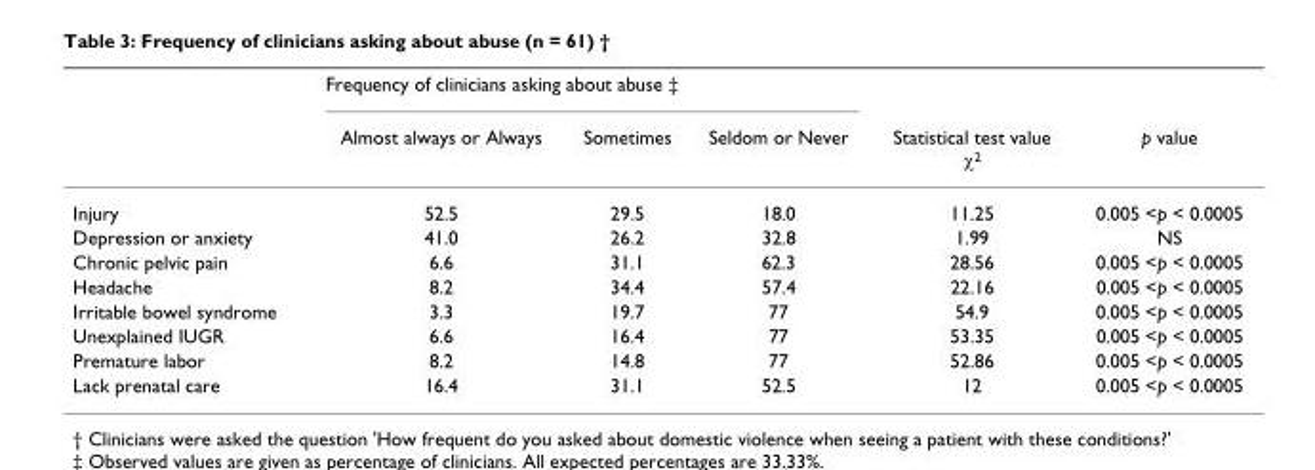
<table><thead><tr><td rowspan="2"></td><td colspan="3">Frequency of clinicians asking about abuse ‡</td><td rowspan="2">Statistical test value χ<sup>2</sup></td><td rowspan="2">p value</td></tr><tr><td>Almost always or Always</td><td>Sometimes</td><td>Seldom or Never</td></tr></thead><tbody><tr><td>Injury</td><td>52.5</td><td>29.5</td><td>18.0</td><td>11.25</td><td>0.005 &lt;p &lt; 0.0005</td></tr><tr><td>Depression or anxiety</td><td>41.0</td><td>26.2</td><td>32.8</td><td>1.99</td><td>NS</td></tr><tr><td>Chronic pelvic pain</td><td>6.6</td><td>31.1</td><td>62.3</td><td>28.56</td><td>0.005 &lt;p &lt; 0.0005</td></tr><tr><td>Headache</td><td>8.2</td><td>34.4</td><td>57.4</td><td>22.16</td><td>0.005 &lt;p &lt; 0.0005</td></tr><tr><td>Irritable bowel syndrome</td><td>3.3</td><td>19.7</td><td>77</td><td>54.9</td><td>0.005 &lt;p &lt; 0.0005</td></tr><tr><td>Unexplained IUGR</td><td>6.6</td><td>16.4</td><td>77</td><td>53.35</td><td>0.005 &lt;p &lt; 0.0005</td></tr><tr><td>Premature labor</td><td>8.2</td><td>14.8</td><td>77</td><td>52.86</td><td>0.005 &lt;p &lt; 0.0005</td></tr><tr><td>Lack prenatal care</td><td>16.4</td><td>31.1</td><td>52.5</td><td>12</td><td>0.005 &lt;p &lt; 0.0005</td></tr></tbody></table>